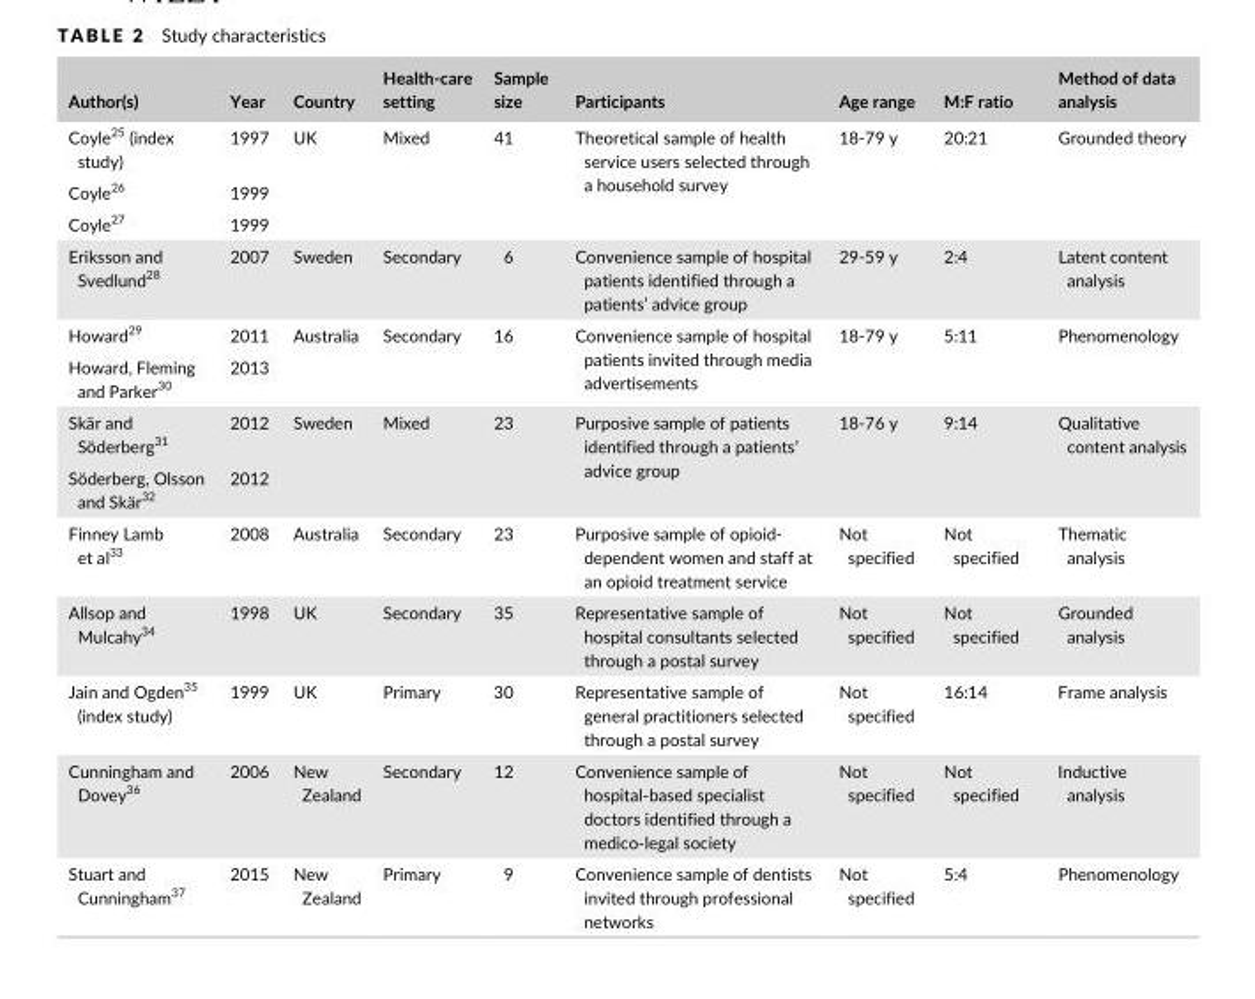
<table><thead><tr><td>Author(s)</td><td>Year</td><td>Country</td><td>Health- care setting</td><td>Sample size</td><td>Participants</td><td>Age range</td><td>M:F ratio</td><td>Method of data analysis</td></tr></thead><tbody><tr><td>Coyle<sup>25</sup> (index study)</td><td>1997</td><td rowspan="3">UK</td><td rowspan="3">Mixed</td><td rowspan="3">41</td><td rowspan="3">Theoretical sample of health service users selected through a household survey</td><td rowspan="3">18- 79 y</td><td rowspan="3">20:21</td><td rowspan="3">Grounded theory</td></tr><tr><td>Coyle<sup>26</sup></td><td>1999</td></tr><tr><td>Coyle<sup>27</sup></td><td>1999</td></tr><tr><td>Eriksson and Svedlund<sup>28</sup></td><td>2007</td><td>Sweden</td><td>Secondary</td><td>6</td><td>Convenience sample of hospital patients identified through a patients’ advice group</td><td>29- 59 y</td><td>2:4</td><td>Latent content analysis</td></tr><tr><td>Howard<sup>29</sup></td><td>2011</td><td rowspan="2">Australia</td><td rowspan="2">Secondary</td><td rowspan="2">16</td><td rowspan="2">Convenience sample of hospital patients invited through media advertisements</td><td rowspan="2">18- 79 y</td><td rowspan="2">5:11</td><td rowspan="2">Phenomenology</td></tr><tr><td>Howard, Fleming and Parker<sup>30</sup></td><td>2013</td></tr><tr><td>Skär and Söderberg<sup>31</sup></td><td>2012</td><td rowspan="2">Sweden</td><td rowspan="2">Mixed</td><td rowspan="2">23</td><td rowspan="2">Purposive sample of patients identified through a patients’ advice group</td><td rowspan="2">18-76 y</td><td rowspan="2">9:14</td><td rowspan="2">Qualitative content analysis</td></tr><tr><td>Söderberg, Olsson and Skär<sup>32</sup></td><td>2012</td></tr><tr><td>Finney Lamb et al<sup>33</sup></td><td>2008</td><td>Australia</td><td>Secondary</td><td>23</td><td>Purposive sample of opioid- dependent women and staff at an opioid treatment service</td><td>Not specified</td><td>Not specified</td><td>Thematic analysis</td></tr><tr><td>Allsop and Mulcahy<sup>34</sup></td><td>1998</td><td>UK</td><td>Secondary</td><td>35</td><td>Representative sample of hospital consultants selected through a postal survey</td><td>Not specified</td><td>Not specified</td><td>Grounded analysis</td></tr><tr><td>Jain and Ogden<sup>35</sup> (index study)</td><td>1999</td><td>UK</td><td>Primary</td><td>30</td><td>Representative sample of general practitioners selected through a postal survey</td><td>Not specified</td><td>16:14</td><td>Frame analysis</td></tr><tr><td>Cunningham and Dovey<sup>36</sup></td><td>2006</td><td>New Zealand</td><td>Secondary</td><td>12</td><td>Convenience sample of hospital- based specialist doctors identified through a medico- legal society</td><td>Not specified</td><td>Not specified</td><td>Inductive analysis</td></tr><tr><td>Stuart and Cunningham<sup>37</sup></td><td>2015</td><td>New Zealand</td><td>Primary</td><td>9</td><td>Convenience sample of dentists invited through professional networks</td><td>Not specified</td><td>5:4</td><td>Phenomenology</td></tr></tbody></table>